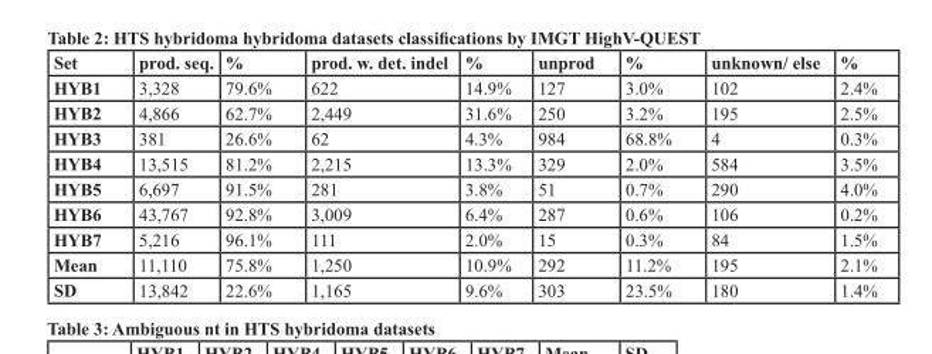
<table><thead><tr><td>Set</td><td>prod. seq.</td><td>%</td><td>prod. w. det. indel</td><td>%</td><td>unprod</td><td>%</td><td>unknown/ else</td><td>%</td></tr></thead><tbody><tr><td>HYB1</td><td>3,328</td><td>79.6%</td><td>622</td><td>14.9%</td><td>127</td><td>3.0%</td><td>102</td><td>2.4%</td></tr><tr><td>HYB2</td><td>4,866</td><td>62.7%</td><td>2,449</td><td>31.6%</td><td>250</td><td>3.2%</td><td>195</td><td>2.5%</td></tr><tr><td>HYB3</td><td>381</td><td>26.6%</td><td>62</td><td>4.3%</td><td>984</td><td>68.8%</td><td>4</td><td>0.3%</td></tr><tr><td>HYB4</td><td>13,515</td><td>81.2%</td><td>2,215</td><td>13.3%</td><td>329</td><td>2.0%</td><td>584</td><td>3.5%</td></tr><tr><td>HYB5</td><td>6,697</td><td>91.5%</td><td>281</td><td>3.8%</td><td>51</td><td>0.7%</td><td>290</td><td>4.0%</td></tr><tr><td>HYB6</td><td>43,767</td><td>92.8%</td><td>3,009</td><td>6.4%</td><td>287</td><td>0.6%</td><td>106</td><td>0.2%</td></tr><tr><td>HYB7</td><td>5,216</td><td>96.1%</td><td>111</td><td>2.0%</td><td>15</td><td>0.3%</td><td>84</td><td>1.5%</td></tr><tr><td>Mean</td><td>11,110</td><td>75.8%</td><td>1,250</td><td>10.9%</td><td>292</td><td>11.2%</td><td>195</td><td>2.1%</td></tr><tr><td>SD</td><td>13,842</td><td>22.6%</td><td>1,165</td><td>9.6%</td><td>303</td><td>23.5%</td><td>180</td><td>1.4%</td></tr></tbody></table>